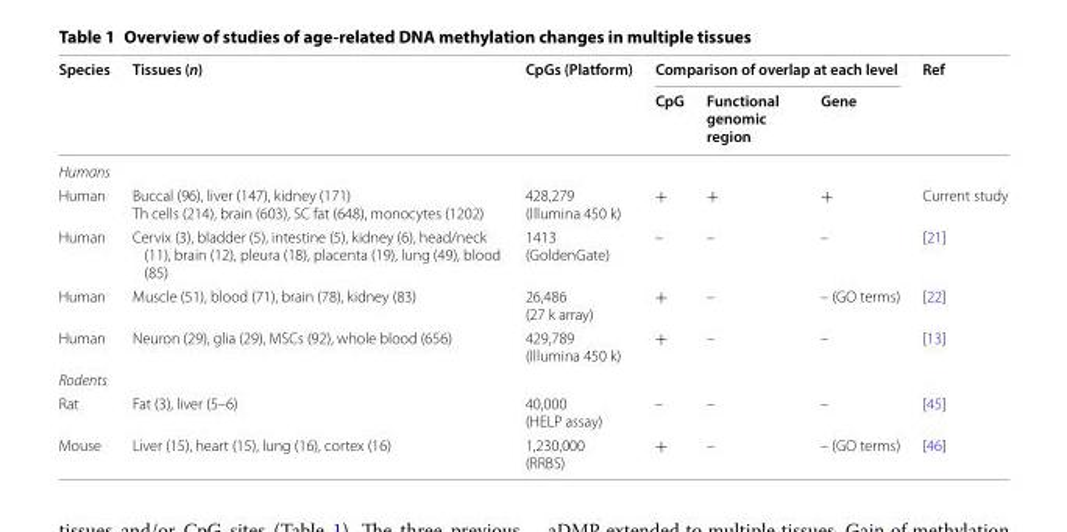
<table><thead><tr><td rowspan="2">Species</td><td rowspan="2">Tissues (n)</td><td rowspan="2">CpGs (Platform)</td><td colspan="3">Comparison of overlap at each level</td><td rowspan="2">Ref</td></tr><tr><td>CpG</td><td>Functional genomic region</td><td>Gene</td></tr></thead><tbody><tr><td colspan="7">Humans</td></tr><tr><td>Human</td><td>Buccal (96), liver (147), kidney (171) Th cells (214), brain (603), SC fat (648), monocytes (1202)</td><td>428,279 (Illumina 450 k)</td><td>+</td><td>+</td><td>+</td><td>Current study</td></tr><tr><td>Human</td><td>Cervix (3), bladder (5), intestine (5), kidney (6), head/neck (11), brain (12), pleura (18), placenta (19), lung (49), blood (85)</td><td>1413 (GoldenGate)</td><td>–</td><td>–</td><td>–</td><td>[21]</td></tr><tr><td>Human</td><td>Muscle (51), blood (71), brain (78), kidney (83)</td><td>26,486 (27 k array)</td><td>+</td><td>–</td><td>– (GO terms)</td><td>[22]</td></tr><tr><td>Human</td><td>Neuron (29), glia (29), MSCs (92), whole blood (656)</td><td>429,789 (Illumina 450 k)</td><td>+</td><td>–</td><td>–</td><td>[13]</td></tr><tr><td colspan="7">Rodents</td></tr><tr><td>Rat</td><td>Fat (3), liver (5–6)</td><td>40,000 (HELP assay)</td><td>–</td><td>–</td><td>–</td><td>[45]</td></tr><tr><td>Mouse</td><td>Liver (15), heart (15), lung (16), cortex (16)</td><td>1,230,000 (RRBS)</td><td>+</td><td>–</td><td>– (GO terms)</td><td>[46]</td></tr></tbody></table>